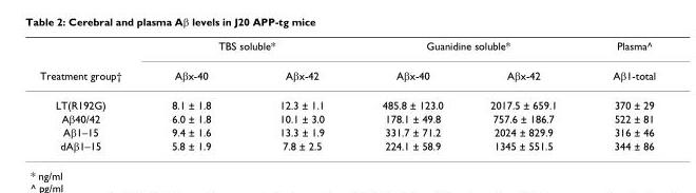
<table><thead><tr><td rowspan="2">Treatment group†</td><td colspan="2">TBS soluble*</td><td colspan="2">Guanidine soluble*</td><td rowspan="2">Plasma^ Aβ1-total</td></tr><tr><td>Aβx-40</td><td>Aβx-42</td><td>Aβx-40</td><td>Aβx-42</td></tr></thead><tbody><tr><td>LT(R192G)</td><td>8.1 ± 1.8</td><td>12.3 ± 1.1</td><td>485.8 ± 123.0</td><td>2017.5 ± 659.1</td><td>370 ± 29</td></tr><tr><td>Aβ40/42</td><td>6.0 ± 1.8</td><td>10.1 ± 3.0</td><td>178.1 ± 49.8</td><td>757.6 ± 186.7</td><td>522 ± 81</td></tr><tr><td>Aβ1–15</td><td>9.4 ± 1.6</td><td>13.3 ± 1.9</td><td>331.7 ± 71.2</td><td>2024 ± 829.9</td><td>316 ± 46</td></tr><tr><td>dAβ1–15</td><td>5.8 ± 1.9</td><td>7.8 ± 2.5</td><td>224.1 ± 58.9</td><td>1345 ± 551.5</td><td>344 ± 86</td></tr></tbody></table>